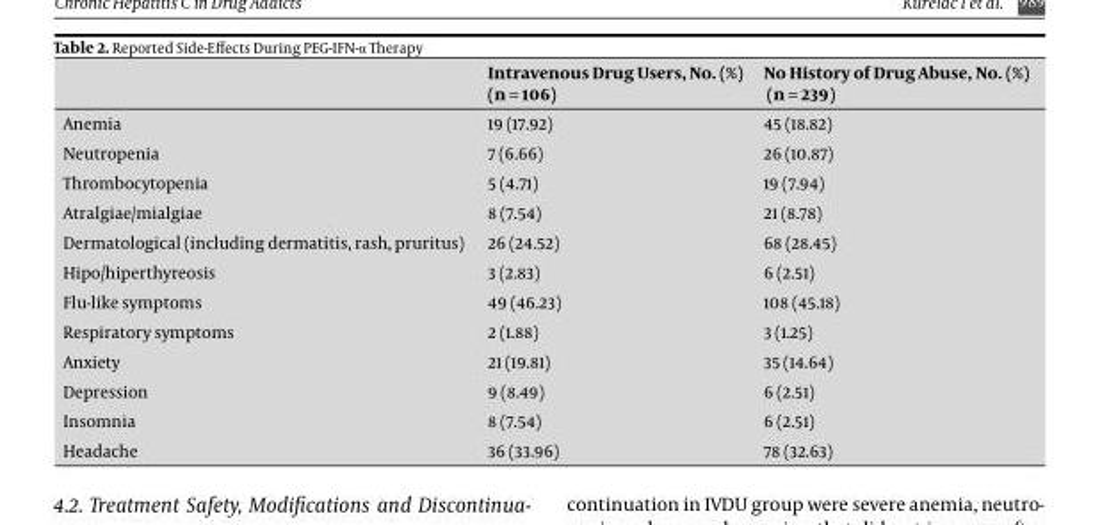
<table><thead><tr><td></td><td>Intravenous Drug Users, No. (%) (n = 106)</td><td>No History of Drug Abuse, No. (%) (n = 239)</td></tr></thead><tbody><tr><td>Anemia</td><td>19 (17.92)</td><td>45 (18.82)</td></tr><tr><td>neutropenia</td><td>7 (6.66)</td><td>26 (10.87)</td></tr><tr><td>Thrombocytopenia</td><td>5 (4.71)</td><td>19 (7.94)</td></tr><tr><td>Atralgiae/mialgiae</td><td>8 (7.54)</td><td>21 (8.78)</td></tr><tr><td>Dermatological (including dermatitis, rash, pruritus)</td><td>26 (24.52)</td><td>68 (28.45)</td></tr><tr><td>Hipo/hiperthyreosis</td><td>3 (2.83)</td><td>6 (2.51)</td></tr><tr><td>Flu-like symptoms</td><td>49 (46.23)</td><td>108 (45.18)</td></tr><tr><td>Respiratory symptoms</td><td>2 (1.88)</td><td>3 (1.25)</td></tr><tr><td>Anxiety</td><td>21 (19.81)</td><td>35 (14.64)</td></tr><tr><td>Depression</td><td>9 (8.49)</td><td>6 (2.51)</td></tr><tr><td>Insomnia</td><td>8 (7.54)</td><td>6 (2.51)</td></tr><tr><td>Headache</td><td>36 (33.96)</td><td>78 (32.63)</td></tr></tbody></table>